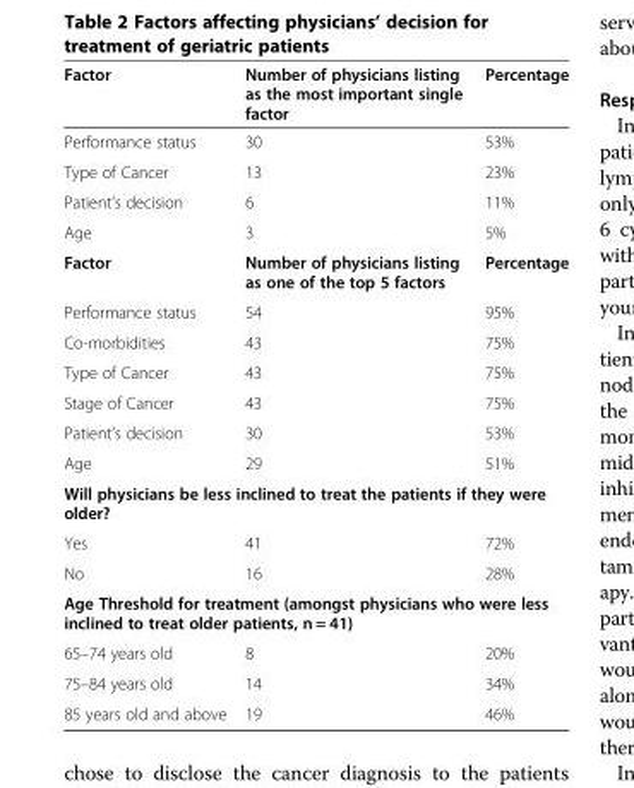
<table><thead><tr><td>Factor</td><td>Number of physicians listing as the most important single factor</td><td>Percentage</td></tr></thead><tbody><tr><td>Performance status</td><td>30</td><td>53%</td></tr><tr><td>Type of Cancer</td><td>13</td><td>23%</td></tr><tr><td>Patient’s decision</td><td>6</td><td>11%</td></tr><tr><td>Age</td><td>3</td><td>5%</td></tr><tr><td>Factor</td><td>Number of physicians listing as one of the top 5 factors</td><td>Percentage</td></tr><tr><td>Performance status</td><td>54</td><td>95%</td></tr><tr><td>Co-morbidities</td><td>43</td><td>75%</td></tr><tr><td>Type of Cancer</td><td>43</td><td>75%</td></tr><tr><td>Stage of Cancer</td><td>43</td><td>75%</td></tr><tr><td>Patient’s decision</td><td>30</td><td>53%</td></tr><tr><td>Age</td><td>29</td><td>51%</td></tr><tr><td colspan="3">Will physicians be less inclined to treat the patients if they were older?</td></tr><tr><td>Yes</td><td>41</td><td>72%</td></tr><tr><td>No</td><td>16</td><td>28%</td></tr><tr><td colspan="3">Age Threshold for treatment (amongst physicians who were less inclined to treat older patients, n = 41)</td></tr><tr><td>65–74 years old</td><td>8</td><td>20%</td></tr><tr><td>75–84 years old</td><td>14</td><td>34%</td></tr><tr><td>85 years old and above</td><td>19</td><td>46%</td></tr></tbody></table>